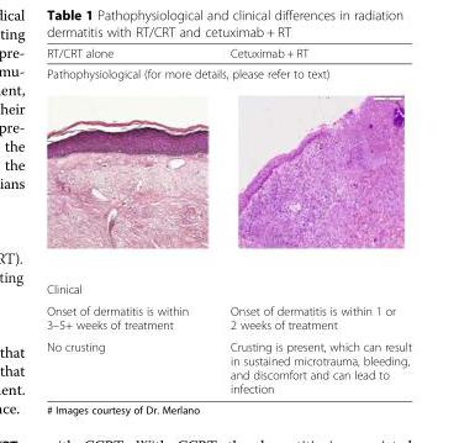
<table><thead><tr><td>RT/CRT alone</td><td>Cetuximab + RT</td></tr></thead><tbody><tr><td colspan="2">Pathophysiological (for more details, please refer to text)</td></tr><tr><td colspan="2">Clinical</td></tr><tr><td>Onset of dermatitis is within 3–5+ weeks of treatment</td><td>Onset of dermatitis is within 1 or 2 weeks of treatment</td></tr><tr><td>No crusting</td><td>Crusting is present, which can result in sustained microtrauma, bleeding, and discomfort and can lead to infection</td></tr></tbody></table>